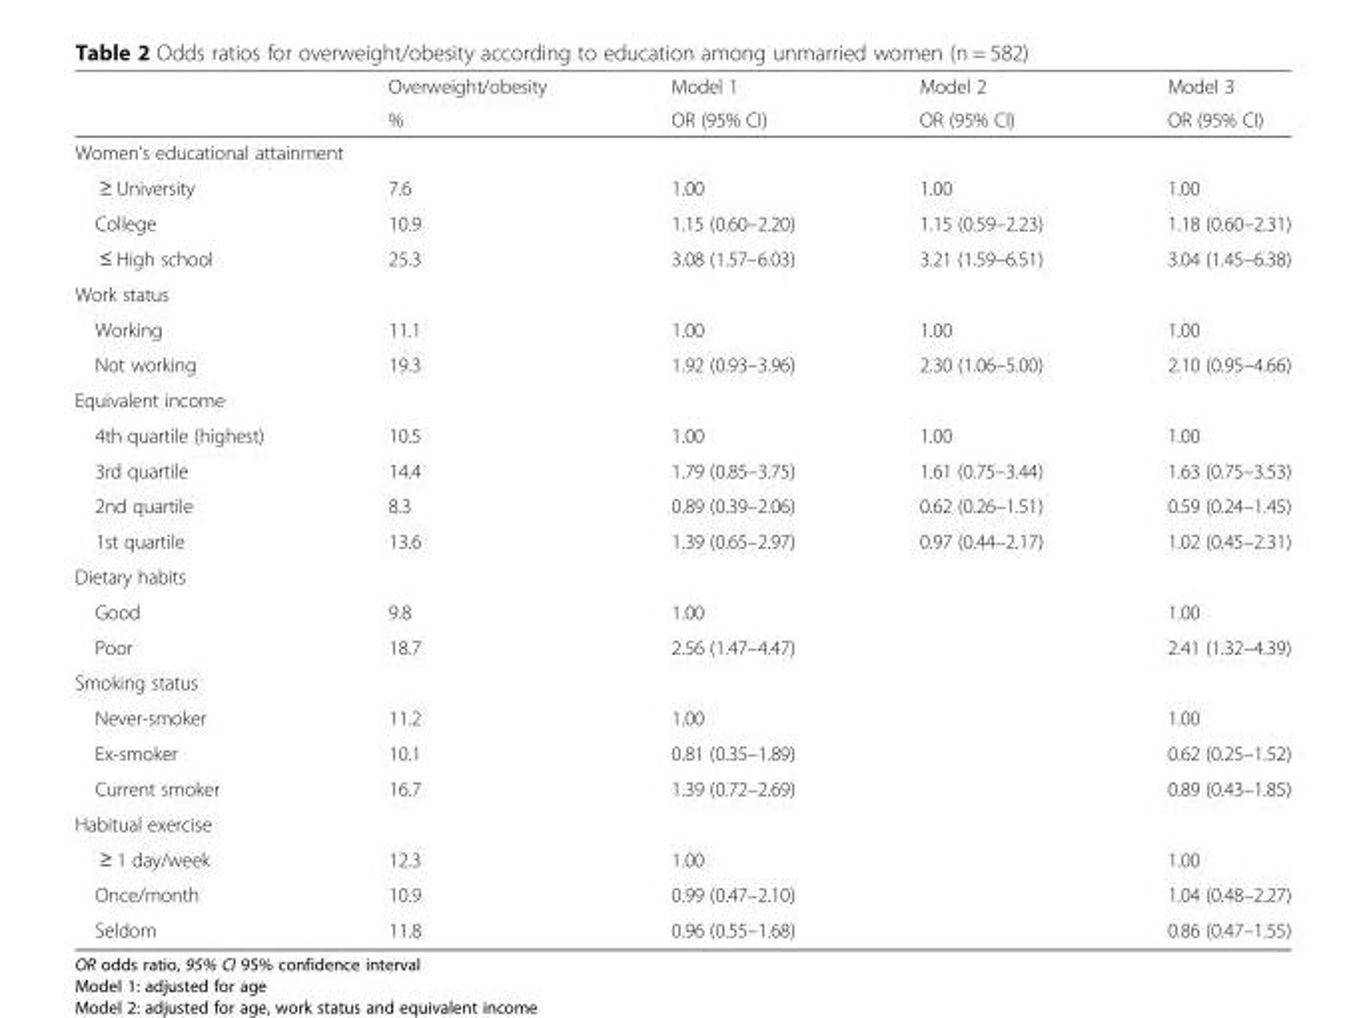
<table><thead><tr><td rowspan="2"></td><td rowspan="2">Overweight/obesity %</td><td rowspan="2">Model 1 OR (95% CI)</td><td rowspan="2">Model 2 OR (95% CI)</td><td rowspan="2">Model 3 OR (95% CI)</td></tr><tr></tr></thead><tbody><tr><td colspan="5">Women’s educational attainment</td></tr><tr><td>≥ University</td><td>7.6</td><td>1.00</td><td>1.00</td><td>1.00</td></tr><tr><td>College</td><td>10.9</td><td>1.15 (0.60–2.20)</td><td>1.15 (0.59–2.23)</td><td>1.18 (0.60–2.31)</td></tr><tr><td>≤ High school</td><td>25.3</td><td>3.08 (1.57–6.03)</td><td>3.21 (1.59–6.51)</td><td>3.04 (1.45–6.38)</td></tr><tr><td colspan="5">Work status</td></tr><tr><td>Working</td><td>11.1</td><td>1.00</td><td>1.00</td><td>1.00</td></tr><tr><td>Not working</td><td>19.3</td><td>1.92 (0.93–3.96)</td><td>2.30 (1.06–5.00)</td><td>2.10 (0.95–4.66)</td></tr><tr><td colspan="5">Equivalent income</td></tr><tr><td>4th quartile (highest)</td><td>10.5</td><td>1.00</td><td>1.00</td><td>1.00</td></tr><tr><td>3rd quartile</td><td>14.4</td><td>1.79 (0.85–3.75)</td><td>1.61 (0.75–3.44)</td><td>1.63 (0.75–3.53)</td></tr><tr><td>2nd quartile</td><td>8.3</td><td>0.89 (0.39–2.06)</td><td>0.62 (0.26–1.51)</td><td>0.59 (0.24–1.45)</td></tr><tr><td>1st quartile</td><td>13.6</td><td>1.39 (0.65–2.97)</td><td>0.97 (0.44–2.17)</td><td>1.02 (0.45–2.31)</td></tr><tr><td colspan="5">Dietary habits</td></tr><tr><td>Good</td><td>9.8</td><td>1.00</td><td></td><td>1.00</td></tr><tr><td>Poor</td><td>18.7</td><td>2.56 (1.47–4.47)</td><td></td><td>2.41 (1.32–4.39)</td></tr><tr><td colspan="5">Smoking status</td></tr><tr><td>Never-smoker</td><td>11.2</td><td>1.00</td><td></td><td>1.00</td></tr><tr><td>Ex-smoker</td><td>10.1</td><td>0.81 (0.35–1.89)</td><td></td><td>0.62 (0.25–1.52)</td></tr><tr><td>Current smoker</td><td>16.7</td><td>1.39 (0.72–2.69)</td><td></td><td>0.89 (0.43–1.85)</td></tr><tr><td colspan="5">Habitual exercise</td></tr><tr><td>≥ 1 day/week</td><td>12.3</td><td>1.00</td><td></td><td>1.00</td></tr><tr><td>Once/month</td><td>10.9</td><td>0.99 (0.47–2.10)</td><td></td><td>1.04 (0.48–2.27)</td></tr><tr><td>Seldom</td><td>11.8</td><td>0.96 (0.55–1.68)</td><td></td><td>0.86 (0.47–1.55)</td></tr></tbody></table>